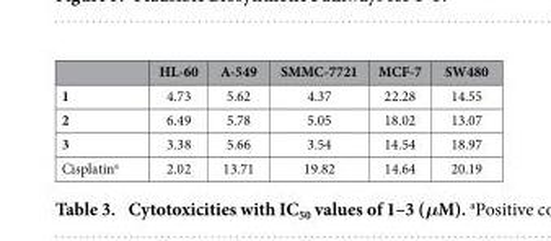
<table><thead><tr><td></td><td>HL-60</td><td>A-549</td><td>SMMC-7721</td><td>MCF-7</td><td>SW480</td></tr></thead><tbody><tr><td>1</td><td>4.73</td><td>5.62</td><td>4.37</td><td>22.28</td><td>14.55</td></tr><tr><td>2</td><td>6.49</td><td>5.78</td><td>5.05</td><td>18.02</td><td>13.07</td></tr><tr><td>3</td><td>3.38</td><td>5.66</td><td>3.54</td><td>14.54</td><td>18.97</td></tr><tr><td>Cisplatin<sup>a</sup></td><td>2.02</td><td>13.71</td><td>19.82</td><td>14.64</td><td>20.19</td></tr></tbody></table>